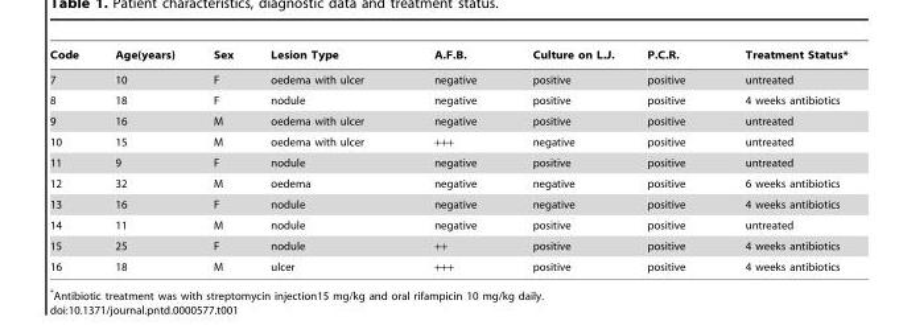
<table><thead><tr><td>Code</td><td>Age(years)</td><td>Sex</td><td>Lesion Type</td><td>A.F.B.</td><td>Culture on L.J.</td><td>P.C.R.</td><td>Treatment Status*</td></tr></thead><tbody><tr><td>7</td><td>10</td><td>F</td><td>oedema with ulcer</td><td>negative</td><td>positive</td><td>positive</td><td>untreated</td></tr><tr><td>8</td><td>18</td><td>F</td><td>nodule</td><td>negative</td><td>positive</td><td>positive</td><td>4 weeks antibiotics</td></tr><tr><td>9</td><td>16</td><td>M</td><td>oedema with ulcer</td><td>negative</td><td>positive</td><td>positive</td><td>untreated</td></tr><tr><td>10</td><td>15</td><td>M</td><td>oedema with ulcer</td><td>+++</td><td>negative</td><td>positive</td><td>untreated</td></tr><tr><td>11</td><td>9</td><td>F</td><td>nodule</td><td>negative</td><td>positive</td><td>positive</td><td>untreated</td></tr><tr><td>12</td><td>32</td><td>M</td><td>oedema</td><td>negative</td><td>negative</td><td>positive</td><td>6 weeks antibiotics</td></tr><tr><td>13</td><td>16</td><td>F</td><td>nodule</td><td>negative</td><td>negative</td><td>positive</td><td>4 weeks antibiotics</td></tr><tr><td>14</td><td>11</td><td>M</td><td>nodule</td><td>negative</td><td>positive</td><td>positive</td><td>untreated</td></tr><tr><td>15</td><td>25</td><td>F</td><td>nodule</td><td>++</td><td>positive</td><td>positive</td><td>4 weeks antibiotics</td></tr><tr><td>16</td><td>18</td><td>M</td><td>ulcer</td><td>+++</td><td>positive</td><td>positive</td><td>4 weeks antibiotics</td></tr></tbody></table>